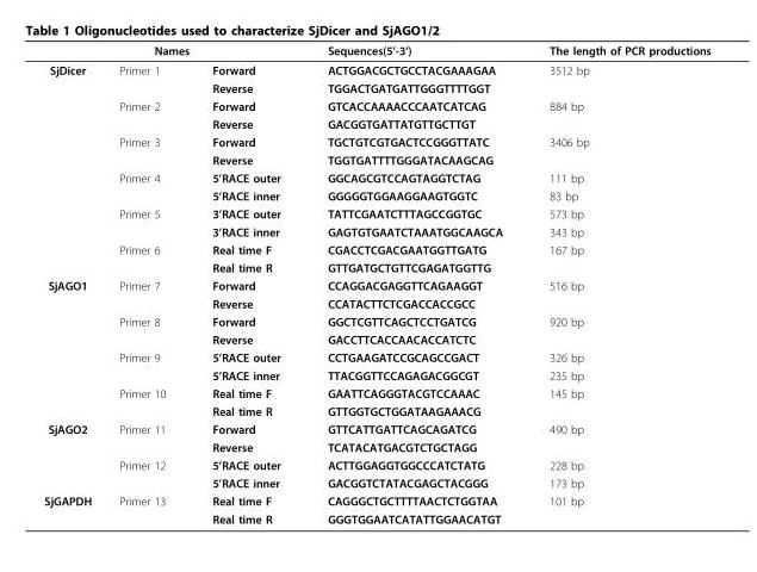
<table><thead><tr><td colspan="3">Names</td><td rowspan="2">Sequences(5’-3’) ACTGGACGCTGCCTACGAAAGAA</td><td rowspan="2">The length of PCR productions 3512 bp</td></tr><tr><td>SjDicer</td><td>Primer 1</td><td>Forward</td></tr></thead><tbody><tr><td></td><td></td><td>Reverse</td><td>TGGACTGATGATTGGGTTTTGGT</td><td></td></tr><tr><td></td><td>Primer 2</td><td>Forward</td><td>GTCACCAAAACCCAATCATCAG</td><td>884 bp</td></tr><tr><td></td><td></td><td>Reverse</td><td>GACGGTGATTATGTTGCTTGT</td><td></td></tr><tr><td></td><td>Primer 3</td><td>Forward</td><td>TGCTGTCGTGACTCCGGGTTATC</td><td>3406 bp</td></tr><tr><td></td><td></td><td>Reverse</td><td>TGGTGATTTTGGGATACAAGCAG</td><td></td></tr><tr><td></td><td>Primer 4</td><td>5’RACE outer</td><td>GGCAGCGTCCAGTAGGTCTAG</td><td>111 bp</td></tr><tr><td></td><td></td><td>5’RACE inner</td><td>GGGGGTGGAAGGAAGTGGTC</td><td>83 bp</td></tr><tr><td></td><td>Primer 5</td><td>3’RACE outer</td><td>TATTCGAATCTTTAGCCGGTGC</td><td>573 bp</td></tr><tr><td></td><td></td><td>3’RACE inner</td><td>GAGTGTGAATCTAAATGGCAAGCA</td><td>343 bp</td></tr><tr><td></td><td>Primer 6</td><td>Real time F</td><td>CGACCTCGACGAATGGTTGATG</td><td>167 bp</td></tr><tr><td></td><td></td><td>Real time R</td><td>GTTGATGCTGTTCGAGATGGTTG</td><td></td></tr><tr><td rowspan="8">SjAGO1</td><td>Primer 7</td><td>Forward</td><td>CCAGGACGAGGTTCAGAAGGT</td><td>516 bp</td></tr><tr><td></td><td>Reverse</td><td>CCATACTTCTCGACCACCGCC</td><td></td></tr><tr><td>Primer 8</td><td>Forward</td><td>GGCTCGTTCAGCTCCTGATCG</td><td>920 bp</td></tr><tr><td></td><td>Reverse</td><td>GACCTTCACCAACACCATCTC</td><td></td></tr><tr><td>Primer 9</td><td>5’RACE outer</td><td>CCTGAAGATCCGCAGCCGACT</td><td>326 bp</td></tr><tr><td></td><td>5’RACE inner</td><td>TTACGGTTCCAGAGACGGCGT</td><td>235 bp</td></tr><tr><td>Primer 10</td><td>Real time F</td><td>GAATTCAGGGTACGTCCAAAC</td><td>145 bp</td></tr><tr><td></td><td>Real time R</td><td>GTTGGTGCTGGATAAGAAACG</td><td></td></tr><tr><td rowspan="4">SjAGO2</td><td>Primer 11</td><td>Forward</td><td>GTTCATTGATTCAGCAGATCG</td><td>490 bp</td></tr><tr><td></td><td>Reverse</td><td>TCATACATGACGTCTGCTAGG</td><td></td></tr><tr><td>Primer 12</td><td>5’RACE outer</td><td>ACTTGGAGGTGGCCCATCTATG</td><td>228 bp</td></tr><tr><td></td><td>5’RACE inner</td><td>GACGGTCTATACGAGCTACGGG</td><td>173 bp</td></tr><tr><td rowspan="2">SjGAPDH</td><td>Primer 13</td><td>Real time F</td><td>CAGGGCTGCTTTTAACTCTGGTAA</td><td>101 bp</td></tr><tr><td></td><td>Real time R</td><td>GGGTGGAATCATATTGGAACATGT</td><td></td></tr></tbody></table>